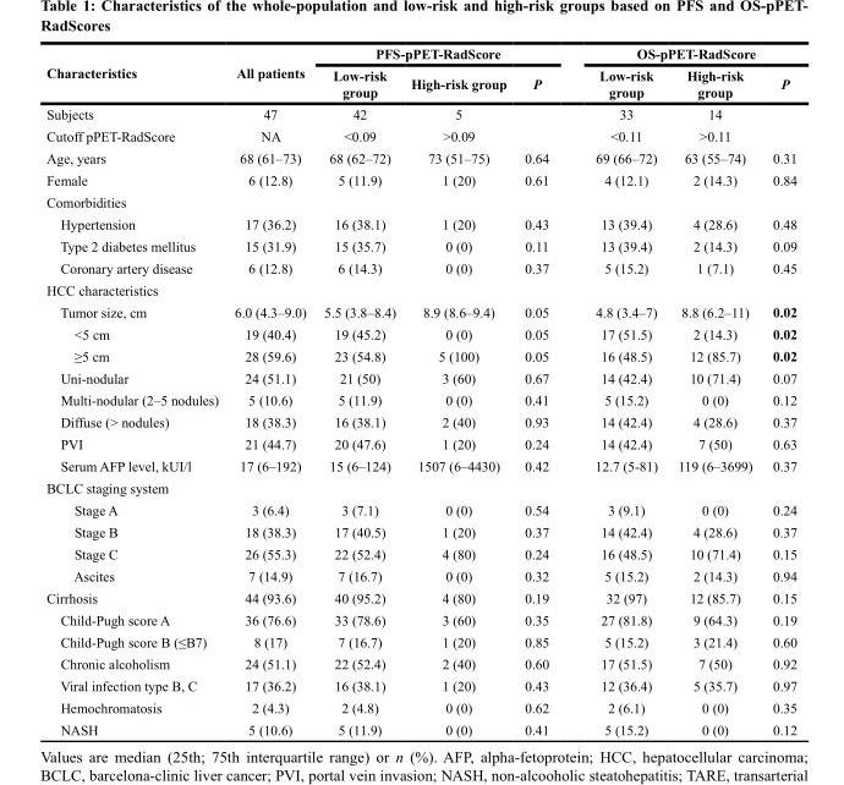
<table><thead><tr><td rowspan="2">Characteristics</td><td rowspan="2">All patients</td><td colspan="3">PFS-pPET-RadScore</td><td colspan="3">OS-pPET-RadScore</td></tr><tr><td>Low-risk group</td><td>High-risk group</td><td>P</td><td>Low-risk group</td><td>High-risk group</td><td>P</td></tr></thead><tbody><tr><td>Subjects</td><td>47</td><td>42</td><td>5</td><td></td><td>33</td><td>14</td><td></td></tr><tr><td>Cutoff pPET-RadScore</td><td>NA</td><td>&lt;0.09</td><td>&gt;0.09</td><td></td><td>&lt;0.11</td><td>&gt;0.11</td><td></td></tr><tr><td>Age, years</td><td>68 (61–73)</td><td>68 (62–72)</td><td>73 (51–75)</td><td>0.64</td><td>69 (66–72)</td><td>63 (55–74)</td><td>0.31</td></tr><tr><td>Female</td><td>6 (12.8)</td><td>5 (11.9)</td><td>1 (20)</td><td>0.61</td><td>4 (12.1)</td><td>2 (14.3)</td><td>0.84</td></tr><tr><td colspan="8">Comorbidities</td></tr><tr><td>Hypertension</td><td>17 (36.2)</td><td>16 (38.1)</td><td>1 (20)</td><td>0.43</td><td>13 (39.4)</td><td>4 (28.6)</td><td>0.48</td></tr><tr><td>Type 2 diabetes mellitus</td><td>15 (31.9)</td><td>15 (35.7)</td><td>0 (0)</td><td>0.11</td><td>13 (39.4)</td><td>2 (14.3)</td><td>0.09</td></tr><tr><td>Coronary artery disease</td><td>6 (12.8)</td><td>6 (14.3)</td><td>0 (0)</td><td>0.37</td><td>5 (15.2)</td><td>1 (7.1)</td><td>0.45</td></tr><tr><td colspan="8">HCC characteristics</td></tr><tr><td>Tumor size, cm</td><td>6.0 (4.3–9.0)</td><td>5.5 (3.8–8.4)</td><td>8.9 (8.6–9.4)</td><td>0.05</td><td>4.8 (3.4–7)</td><td>8.8 (6.2–11)</td><td>0.02</td></tr><tr><td>&lt;5 cm</td><td>19 (40.4)</td><td>19 (45.2)</td><td>0 (0)</td><td>0.05</td><td>17 (51.5)</td><td>2 (14.3)</td><td>0.02</td></tr><tr><td>≥5 cm</td><td>28 (59.6)</td><td>23 (54.8)</td><td>5 (100)</td><td>0.05</td><td>16 (48.5)</td><td>12 (85.7)</td><td>0.02</td></tr><tr><td>Uni-nodular</td><td>24 (51.1)</td><td>21 (50)</td><td>3 (60)</td><td>0.67</td><td>14 (42.4)</td><td>10 (71.4)</td><td>0.07</td></tr><tr><td>Multi-nodular (2–5 nodules)</td><td>5 (10.6)</td><td>5 (11.9)</td><td>0 (0)</td><td>0.41</td><td>5 (15.2)</td><td>0 (0)</td><td>0.12</td></tr><tr><td>Diffuse (&gt; nodules)</td><td>18 (38.3)</td><td>16 (38.1)</td><td>2 (40)</td><td>0.93</td><td>14 (42.4)</td><td>4 (28.6)</td><td>0.37</td></tr><tr><td>PVI</td><td>21 (44.7)</td><td>20 (47.6)</td><td>1 (20)</td><td>0.24</td><td>14 (42.4)</td><td>7 (50)</td><td>0.63</td></tr><tr><td>Serum AFP level, kUI/l</td><td>17 (6–192)</td><td>15 (6–124)</td><td>1507 (6–4430)</td><td>0.42</td><td>12.7 (5-81)</td><td>119 (6–3699)</td><td>0.37</td></tr><tr><td colspan="8">BCLC staging system</td></tr><tr><td>Stage A</td><td>3 (6.4)</td><td>3 (7.1)</td><td>0 (0)</td><td>0.54</td><td>3 (9.1)</td><td>0 (0)</td><td>0.24</td></tr><tr><td>Stage B</td><td>18 (38.3)</td><td>17 (40.5)</td><td>1 (20)</td><td>0.37</td><td>14 (42.4)</td><td>4 (28.6)</td><td>0.37</td></tr><tr><td>Stage C</td><td>26 (55.3)</td><td>22 (52.4)</td><td>4 (80)</td><td>0.24</td><td>16 (48.5)</td><td>10 (71.4)</td><td>0.15</td></tr><tr><td>Ascites</td><td>7 (14.9)</td><td>7 (16.7)</td><td>0 (0)</td><td>0.32</td><td>5 (15.2)</td><td>2 (14.3)</td><td>0.94</td></tr><tr><td>Cirrhosis</td><td>44 (93.6)</td><td>40 (95.2)</td><td>4 (80)</td><td>0.19</td><td>32 (97)</td><td>12 (85.7)</td><td>0.15</td></tr><tr><td>Child-Pugh score A</td><td>36 (76.6)</td><td>33 (78.6)</td><td>3 (60)</td><td>0.35</td><td>27 (81.8)</td><td>9 (64.3)</td><td>0.19</td></tr><tr><td>Child-Pugh score B (≤B7)</td><td>8 (17)</td><td>7 (16.7)</td><td>1 (20)</td><td>0.85</td><td>5 (15.2)</td><td>3 (21.4)</td><td>0.60</td></tr><tr><td>Chronic alcoholism</td><td>24 (51.1)</td><td>22 (52.4)</td><td>2 (40)</td><td>0.60</td><td>17 (51.5)</td><td>7 (50)</td><td>0.92</td></tr><tr><td>Viral infection type B, C</td><td>17 (36.2)</td><td>16 (38.1)</td><td>1 (20)</td><td>0.43</td><td>12 (36.4)</td><td>5 (35.7)</td><td>0.97</td></tr><tr><td>Hemochromatosis</td><td>2 (4.3)</td><td>2 (4.8)</td><td>0 (0)</td><td>0.62</td><td>2 (6.1)</td><td>0 (0)</td><td>0.35</td></tr><tr><td>NASH</td><td>5 (10.6)</td><td>5 (11.9)</td><td>0 (0)</td><td>0.41</td><td>5 (15.2)</td><td>0 (0)</td><td>0.12</td></tr></tbody></table>